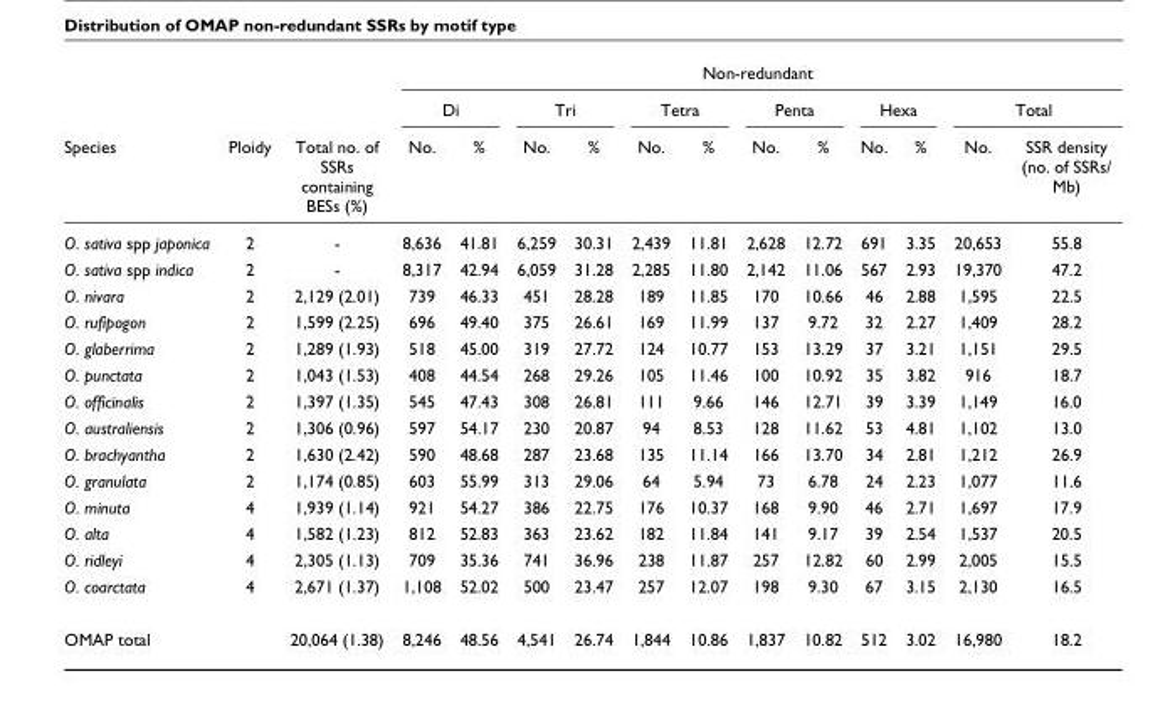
<table><thead><tr><td rowspan="3">Species</td><td rowspan="3">Ploidy</td><td rowspan="3">Total no. of SSRs containing BESs (%)</td><td colspan="12">Non-redundant</td></tr><tr><td colspan="2">Di</td><td colspan="2">Tri</td><td colspan="2">Tetra</td><td colspan="2">Penta</td><td colspan="2">Hexa</td><td colspan="2">Total</td></tr><tr><td>No.</td><td>%</td><td>No.</td><td>%</td><td>No.</td><td>%</td><td>No.</td><td>%</td><td>No.</td><td>%</td><td>No.</td><td>SSR density (no. of SSRs/ Mb)</td></tr></thead><tbody><tr><td>O. sativa spp japonica</td><td>2</td><td>-</td><td>8,636</td><td>41.81</td><td>6,259</td><td>30.31</td><td>2,439</td><td>11.81</td><td>2,628</td><td>12.72</td><td>691</td><td>3.35</td><td>20,653</td><td>55.8</td></tr><tr><td>O. sativa spp indica</td><td>2</td><td>-</td><td>8,317</td><td>42.94</td><td>6,059</td><td>31.28</td><td>2,285</td><td>11.80</td><td>2,142</td><td>11.06</td><td>567</td><td>2.93</td><td>19,370</td><td>47.2</td></tr><tr><td>O. nivara</td><td>2</td><td>2,129 (2.01)</td><td>739</td><td>46.33</td><td>451</td><td>28.28</td><td>189</td><td>11.85</td><td>170</td><td>10.66</td><td>46</td><td>2.88</td><td>1,595</td><td>22.5</td></tr><tr><td>O. rufipogon</td><td>2</td><td>1,599 (2.25)</td><td>696</td><td>49.40</td><td>375</td><td>26.61</td><td>169</td><td>11.99</td><td>137</td><td>9.72</td><td>32</td><td>2.27</td><td>1,409</td><td>28.2</td></tr><tr><td>O. glaberrima</td><td>2</td><td>1,289 (1.93)</td><td>518</td><td>45.00</td><td>319</td><td>27.72</td><td>124</td><td>10.77</td><td>153</td><td>13.29</td><td>37</td><td>3.21</td><td>1,151</td><td>29.5</td></tr><tr><td>O. punctata</td><td>2</td><td>1,043 (1.53)</td><td>408</td><td>44.54</td><td>268</td><td>29.26</td><td>105</td><td>11.46</td><td>100</td><td>10.92</td><td>35</td><td>3.82</td><td>916</td><td>18.7</td></tr><tr><td>O. officinalis</td><td>2</td><td>1,397 (1.35)</td><td>545</td><td>47.43</td><td>308</td><td>26.81</td><td>111</td><td>9.66</td><td>146</td><td>12.71</td><td>39</td><td>3.39</td><td>1,149</td><td>16.0</td></tr><tr><td>O. australiensis</td><td>2</td><td>1,306 (0.96)</td><td>597</td><td>54.17</td><td>230</td><td>20.87</td><td>94</td><td>8.53</td><td>128</td><td>11.62</td><td>53</td><td>4.81</td><td>1,102</td><td>13.0</td></tr><tr><td>O. brachyantha</td><td>2</td><td>1,630 (2.42)</td><td>590</td><td>48.68</td><td>287</td><td>23.68</td><td>135</td><td>11.14</td><td>166</td><td>13.70</td><td>34</td><td>2.81</td><td>1,212</td><td>26.9</td></tr><tr><td>O. granulata</td><td>2</td><td>1,174 (0.85)</td><td>603</td><td>55.99</td><td>313</td><td>29.06</td><td>64</td><td>5.94</td><td>73</td><td>6.78</td><td>24</td><td>2.23</td><td>1,077</td><td>11.6</td></tr><tr><td>O. minuta</td><td>4</td><td>1,939 (1.14)</td><td>921</td><td>54.27</td><td>386</td><td>22.75</td><td>176</td><td>10.37</td><td>168</td><td>9.90</td><td>46</td><td>2.71</td><td>1,697</td><td>17.9</td></tr><tr><td>O. alta</td><td>4</td><td>1,582 (1.23)</td><td>812</td><td>52.83</td><td>363</td><td>23.62</td><td>182</td><td>11.84</td><td>141</td><td>9.17</td><td>39</td><td>2.54</td><td>1,537</td><td>20.5</td></tr><tr><td>O. ridleyi</td><td>4</td><td>2,305 (1.13)</td><td>709</td><td>35.36</td><td>741</td><td>36.96</td><td>238</td><td>11.87</td><td>257</td><td>12.82</td><td>60</td><td>2.99</td><td>2,005</td><td>15.5</td></tr><tr><td>O. coarctata</td><td>4</td><td>2,671 (1.37)</td><td>1,108</td><td>52.02</td><td>500</td><td>23.47</td><td>257</td><td>12.07</td><td>198</td><td>9.30</td><td>67</td><td>3.15</td><td>2,130</td><td>16.5</td></tr><tr><td>OMAP total</td><td></td><td>20,064 (1.38)</td><td>8,246</td><td>48.56</td><td>4,541</td><td>26.74</td><td>1,844</td><td>10.86</td><td>1,837</td><td>10.82</td><td>512</td><td>3.02</td><td>16,980</td><td>18.2</td></tr></tbody></table>